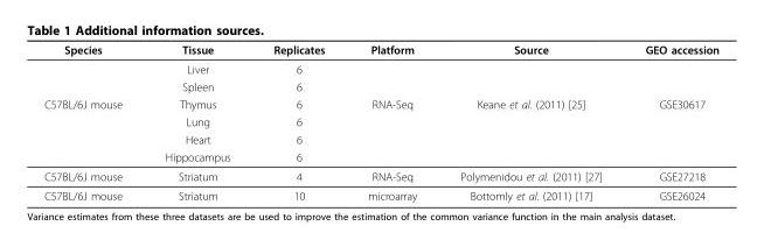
<table><thead><tr><td>Species</td><td>Tissue</td><td>Replicates</td><td>Platform</td><td>Source</td><td>GEO accession</td></tr></thead><tbody><tr><td></td><td>Liver</td><td>6</td><td></td><td></td><td></td></tr><tr><td></td><td>Spleen</td><td>6</td><td></td><td></td><td></td></tr><tr><td rowspan="4">C57BL/6J mouse</td><td>Thymus</td><td>6</td><td>RNA-Seq</td><td>Keane et al. (2011) [25]</td><td>GSE30617</td></tr><tr><td>Lung</td><td>6</td><td></td><td></td><td></td></tr><tr><td>Heart</td><td>6</td><td></td><td></td><td></td></tr><tr><td>Hippocampus</td><td>6</td><td></td><td></td><td></td></tr><tr><td>C57BL/6J mouse</td><td>Striatum</td><td>4</td><td>RNA-Seq</td><td>Polymenidou et al. (2011) [27]</td><td>GSE27218</td></tr><tr><td>C57BL/6J mouse</td><td>Striatum</td><td>10</td><td>microarray</td><td>Bottomly et al. (2011) [17]</td><td>GSE26024</td></tr></tbody></table>